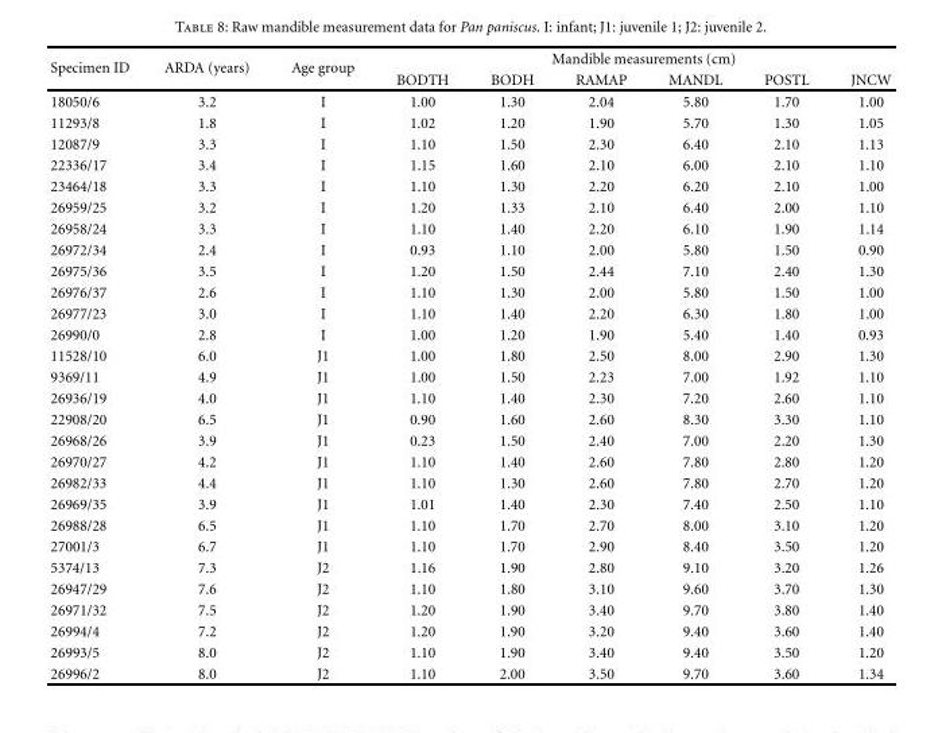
<table><thead><tr><td rowspan="2">Specimen ID</td><td rowspan="2">ARDA (years)</td><td rowspan="2">Age group</td><td colspan="6">Mandible measurements (cm)</td></tr><tr><td>BODTH</td><td>BODH</td><td>RAMAP</td><td>MANDL</td><td>POSTL</td><td>JNCW</td></tr></thead><tbody><tr><td>18050/6</td><td>3.2</td><td>I</td><td>1.00</td><td>1.30</td><td>2.04</td><td>5.80</td><td>1.70</td><td>1.00</td></tr><tr><td>11293/8</td><td>1.8</td><td>I</td><td>1.02</td><td>1.20</td><td>1.90</td><td>5.70</td><td>1.30</td><td>1.05</td></tr><tr><td>12087/9</td><td>3.3</td><td>I</td><td>1.10</td><td>1.50</td><td>2.30</td><td>6.40</td><td>2.10</td><td>1.13</td></tr><tr><td>22336/17</td><td>3.4</td><td>I</td><td>1.15</td><td>1.60</td><td>2.10</td><td>6.00</td><td>2.10</td><td>1.10</td></tr><tr><td>23464/18</td><td>3.3</td><td>I</td><td>1.10</td><td>1.30</td><td>2.20</td><td>6.20</td><td>2.10</td><td>1.00</td></tr><tr><td>26959/25</td><td>3.2</td><td>I</td><td>1.20</td><td>1.33</td><td>2.10</td><td>6.40</td><td>2.00</td><td>1.10</td></tr><tr><td>26958/24</td><td>3.3</td><td>I</td><td>1.10</td><td>1.40</td><td>2.20</td><td>6.10</td><td>1.90</td><td>1.14</td></tr><tr><td>26972/34</td><td>2.4</td><td>I</td><td>0.93</td><td>1.10</td><td>2.00</td><td>5.80</td><td>1.50</td><td>0.90</td></tr><tr><td>26975/36</td><td>3.5</td><td>I</td><td>1.20</td><td>1.50</td><td>2.44</td><td>7.10</td><td>2.40</td><td>1.30</td></tr><tr><td>26976/37</td><td>2.6</td><td>I</td><td>1.10</td><td>1.30</td><td>2.00</td><td>5.80</td><td>1.50</td><td>1.00</td></tr><tr><td>26977/23</td><td>3.0</td><td>I</td><td>1.10</td><td>1.40</td><td>2.20</td><td>6.30</td><td>1.80</td><td>1.00</td></tr><tr><td>26990/0</td><td>2.8</td><td>I</td><td>1.00</td><td>1.20</td><td>1.90</td><td>5.40</td><td>1.40</td><td>0.93</td></tr><tr><td>11528/10</td><td>6.0</td><td>J1</td><td>1.00</td><td>1.80</td><td>2.50</td><td>8.00</td><td>2.90</td><td>1.30</td></tr><tr><td>9369/11</td><td>4.9</td><td>J1</td><td>1.00</td><td>1.50</td><td>2.23</td><td>7.00</td><td>1.92</td><td>1.10</td></tr><tr><td>26936/19</td><td>4.0</td><td>J1</td><td>1.10</td><td>1.40</td><td>2.30</td><td>7.20</td><td>2.60</td><td>1.10</td></tr><tr><td>22908/20</td><td>6.5</td><td>J1</td><td>0.90</td><td>1.60</td><td>2.60</td><td>8.30</td><td>3.30</td><td>1.10</td></tr><tr><td>26968/26</td><td>3.9</td><td>J1</td><td>0.23</td><td>1.50</td><td>2.40</td><td>7.00</td><td>2.20</td><td>1.30</td></tr><tr><td>26970/27</td><td>4.2</td><td>J1</td><td>1.10</td><td>1.40</td><td>2.60</td><td>7.80</td><td>2.80</td><td>1.20</td></tr><tr><td>26982/33</td><td>4.4</td><td>J1</td><td>1.10</td><td>1.30</td><td>2.60</td><td>7.80</td><td>2.70</td><td>1.20</td></tr><tr><td>26969/35</td><td>3.9</td><td>J1</td><td>1.01</td><td>1.40</td><td>2.30</td><td>7.40</td><td>2.50</td><td>1.10</td></tr><tr><td>26988/28</td><td>6.5</td><td>J1</td><td>1.10</td><td>1.70</td><td>2.70</td><td>8.00</td><td>3.10</td><td>1.20</td></tr><tr><td>27001/3</td><td>6.7</td><td>J1</td><td>1.10</td><td>1.70</td><td>2.90</td><td>8.40</td><td>3.50</td><td>1.20</td></tr><tr><td>5374/13</td><td>7.3</td><td>J2</td><td>1.16</td><td>1.90</td><td>2.80</td><td>9.10</td><td>3.20</td><td>1.26</td></tr><tr><td>26947/29</td><td>7.6</td><td>J2</td><td>1.10</td><td>1.80</td><td>3.10</td><td>9.60</td><td>3.70</td><td>1.30</td></tr><tr><td>26971/32</td><td>7.5</td><td>J2</td><td>1.20</td><td>1.90</td><td>3.40</td><td>9.70</td><td>3.80</td><td>1.40</td></tr><tr><td>26994/4</td><td>7.2</td><td>J2</td><td>1.20</td><td>1.90</td><td>3.20</td><td>9.40</td><td>3.60</td><td>1.40</td></tr><tr><td>26993/5</td><td>8.0</td><td>J2</td><td>1.10</td><td>1.90</td><td>3.40</td><td>9.40</td><td>3.50</td><td>1.20</td></tr><tr><td>26996/2</td><td>8.0</td><td>J2</td><td>1.10</td><td>2.00</td><td>3.50</td><td>9.70</td><td>3.60</td><td>1.34</td></tr></tbody></table>